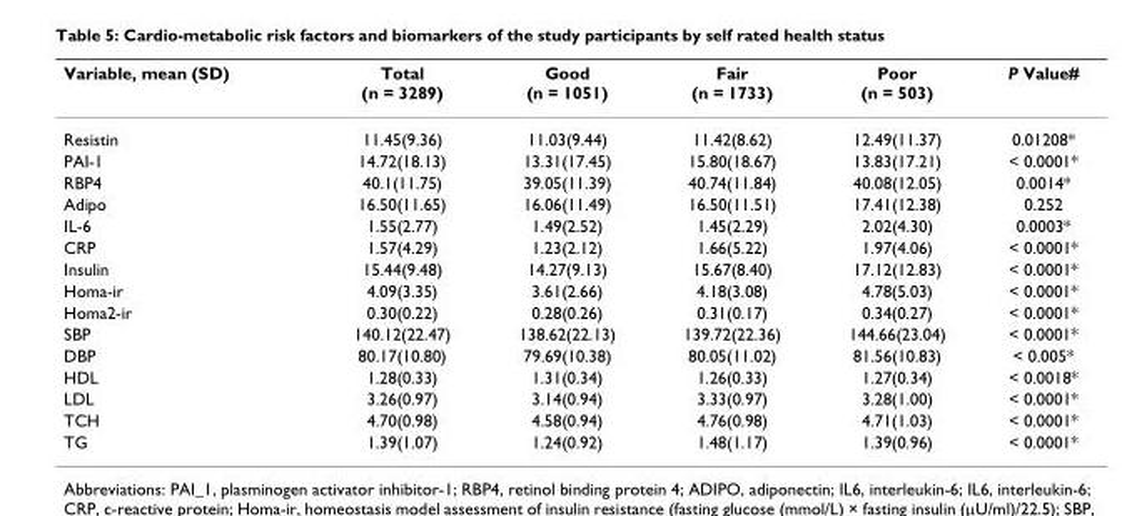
<table><thead><tr><td>Variable, mean (SD)</td><td>Total (n = 3289)</td><td>Good (n = 1051)</td><td>Fair (n = 1733)</td><td>Poor (n = 503)</td><td>P Value#</td></tr></thead><tbody><tr><td>Resistin</td><td>11.45(9.36)</td><td>11.03(9.44)</td><td>11.42(8.62)</td><td>12.49(11.37)</td><td>0.01208*</td></tr><tr><td>PAI-1</td><td>14.72(18.13)</td><td>13.31(17.45)</td><td>15.80(18.67)</td><td>13.83(17.21)</td><td>&lt; 0.0001*</td></tr><tr><td>RBP4</td><td>40.1(11.75)</td><td>39.05(11.39)</td><td>40.74(11.84)</td><td>40.08(12.05)</td><td>0.0014*</td></tr><tr><td>Adipo</td><td>16.50(11.65)</td><td>16.06(11.49)</td><td>16.50(11.51)</td><td>17.41(12.38)</td><td>0.252</td></tr><tr><td>IL-6</td><td>1.55(2.77)</td><td>1.49(2.52)</td><td>1.45(2.29)</td><td>2.02(4.30)</td><td>0.0003*</td></tr><tr><td>CRP</td><td>1.57(4.29)</td><td>1.23(2.12)</td><td>1.66(5.22)</td><td>1.97(4.06)</td><td>&lt; 0.0001*</td></tr><tr><td>Insulin</td><td>15.44(9.48)</td><td>14.27(9.13)</td><td>15.67(8.40)</td><td>17.12(12.83)</td><td>&lt; 0.0001*</td></tr><tr><td>Homa-ir</td><td>4.09(3.35)</td><td>3.61(2.66)</td><td>4.18(3.08)</td><td>4.78(5.03)</td><td>&lt; 0.0001*</td></tr><tr><td>Homa2-ir</td><td>0.30(0.22)</td><td>0.28(0.26)</td><td>0.31(0.17)</td><td>0.34(0.27)</td><td>&lt; 0.0001*</td></tr><tr><td>SBP</td><td>140.12(22.47)</td><td>138.62(22.13)</td><td>139.72(22.36)</td><td>144.66(23.04)</td><td>&lt; 0.0001*</td></tr><tr><td>DBP</td><td>80.17(10.80)</td><td>79.69(10.38)</td><td>80.05(11.02)</td><td>81.56(10.83)</td><td>&lt; 0.005*</td></tr><tr><td>HDL</td><td>1.28(0.33)</td><td>1.31(0.34)</td><td>1.26(0.33)</td><td>1.27(0.34)</td><td>&lt; 0.0018*</td></tr><tr><td>LDL</td><td>3.26(0.97)</td><td>3.14(0.94)</td><td>3.33(0.97)</td><td>3.28(1.00)</td><td>&lt; 0.0001*</td></tr><tr><td>TCH</td><td>4.70(0.98)</td><td>4.58(0.94)</td><td>4.76(0.98)</td><td>4.71(1.03)</td><td>&lt; 0.0001*</td></tr><tr><td>TG</td><td>1.39(1.07)</td><td>1.24(0.92)</td><td>1.48(1.17)</td><td>1.39(0.96)</td><td>&lt; 0.0001*</td></tr></tbody></table>